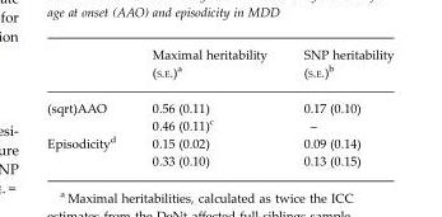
<table><thead><tr><td></td><td>Maximal heritability (S.E.)<sup>a</sup></td><td>SNP heritability (S.E.)<sup>b</sup></td></tr></thead><tbody><tr><td>(sqrt)AAO</td><td>0.56 (0.11) 0.46 (0.11)<sup>c</sup></td><td>0.17 (0.10) –</td></tr><tr><td>Episodicity<sup>d</sup></td><td>0.15 (0.02) 0.33 (0.10)</td><td>0.09 (0.14) 0.13 (0.15)</td></tr></tbody></table>